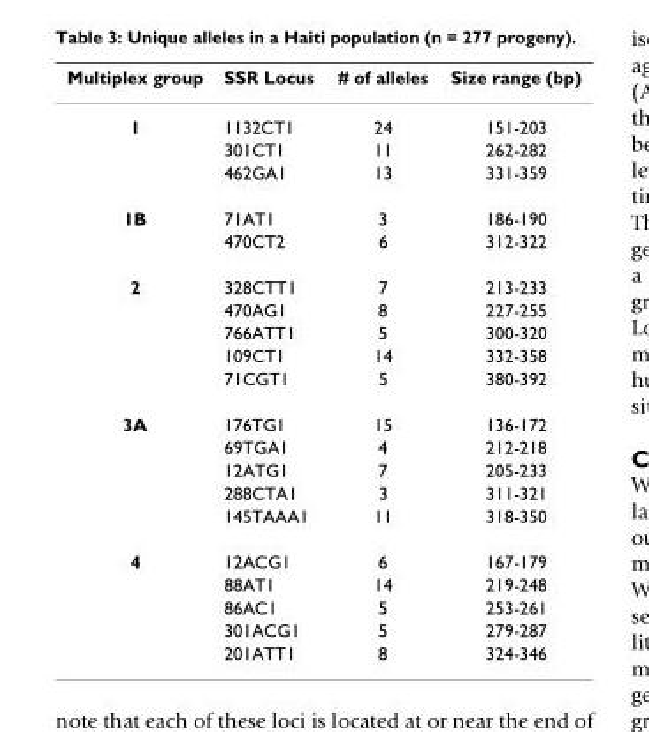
<table><thead><tr><td>Multiplex group</td><td>SSR Locus</td><td># of alleles</td><td>Size range (bp)</td></tr></thead><tbody><tr><td rowspan="3">1</td><td>1132CT1</td><td>24</td><td>151-203</td></tr><tr><td>301CT1</td><td>11</td><td>262-282</td></tr><tr><td>462GA1</td><td>13</td><td>331-359</td></tr><tr><td rowspan="2">1B</td><td>71AT1</td><td>3</td><td>186-190</td></tr><tr><td>470CT2</td><td>6</td><td>312-322</td></tr><tr><td rowspan="5">2</td><td>328CTT1</td><td>7</td><td>213-233</td></tr><tr><td>470AG1</td><td>8</td><td>227-255</td></tr><tr><td>766ATT1</td><td>5</td><td>300-320</td></tr><tr><td>109CT1</td><td>14</td><td>332-358</td></tr><tr><td>71CGT1</td><td>5</td><td>380-392</td></tr><tr><td rowspan="5">3A</td><td>176TG1</td><td>15</td><td>136-172</td></tr><tr><td>69TGA1</td><td>4</td><td>212-218</td></tr><tr><td>12ATG1</td><td>7</td><td>205-233</td></tr><tr><td>288CTA1</td><td>3</td><td>311-321</td></tr><tr><td>145TAAA1</td><td>11</td><td>318-350</td></tr><tr><td rowspan="5">4</td><td>12ACG1</td><td>6</td><td>167-179</td></tr><tr><td>88AT1</td><td>14</td><td>219-248</td></tr><tr><td>86AC1</td><td>5</td><td>253-261</td></tr><tr><td>301ACG1</td><td>5</td><td>279-287</td></tr><tr><td>201ATT1</td><td>8</td><td>324-346</td></tr></tbody></table>